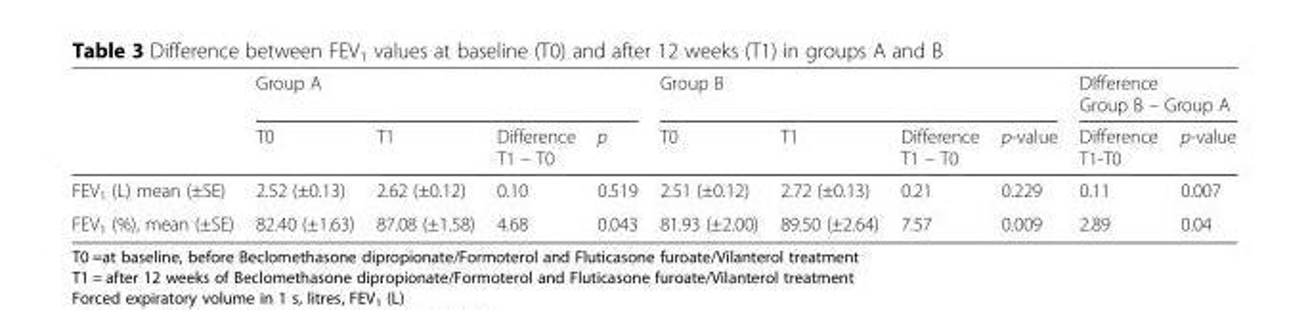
<table><thead><tr><td rowspan="2"></td><td colspan="4">Group A</td><td colspan="4">Group B</td><td colspan="2">DIfference Group B – Group A</td></tr><tr><td>T0</td><td>T1</td><td>Difference T1 – T0</td><td>p</td><td>T0</td><td>T1</td><td>Difference T1 – T0</td><td>p-value</td><td>Difference T1-T0</td><td>p-value</td></tr></thead><tbody><tr><td>FEV<sub>1</sub> (L) mean (±SE)</td><td>2.52 (±0.13)</td><td>2.62 (±0.12)</td><td>0.10</td><td>0.519</td><td>2.51 (±0.12)</td><td>2.72 (±0.13)</td><td>0.21</td><td>0.229</td><td>0.11</td><td>0.007</td></tr><tr><td>FEV<sub>1</sub> (%), mean (±SE)</td><td>82.40 (±1.63)</td><td>87.08 (±1.58)</td><td>4.68</td><td>0.043</td><td>81.93 (±2.00)</td><td>89.50 (±2.64)</td><td>7.57</td><td>0.009</td><td>2.89</td><td>0.04</td></tr></tbody></table>